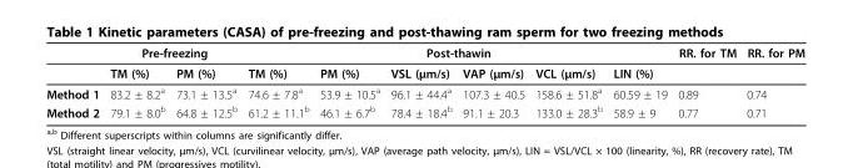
<table><thead><tr><td rowspan="2"></td><td colspan="2">Pre-freezing</td><td colspan="6">Post-thawin</td><td rowspan="2">RR. for TM</td><td rowspan="2">RR. for PM</td></tr><tr><td>TM (%)</td><td>PM (%)</td><td>TM (%)</td><td>PM (%)</td><td>VSL (μm/s)</td><td>VAP (μm/s)</td><td>VCL (μm/s)</td><td>LIN (%)</td></tr></thead><tbody><tr><td>Method 1</td><td>83.2 ± 8.2a</td><td>73.1 ± 13.5a</td><td>74.6 ± 7.8a</td><td>53.9 ± 10.5a</td><td>96.1 ± 44.4a</td><td>107.3 ± 40.5</td><td>158.6 ± 51.8a</td><td>60.59 ± 19</td><td>0.89</td><td>0.74</td></tr><tr><td>Method 2</td><td>79.1 ± 8.0b</td><td>64.8 ± 12.5b</td><td>61.2 ± 11.1b</td><td>46.1 ± 6.7b</td><td>78.4 ± 18.4b</td><td>91.1 ± 20.3</td><td>133.0 ± 28.3b</td><td>58.9 ± 9</td><td>0.77</td><td>0.71</td></tr></tbody></table>